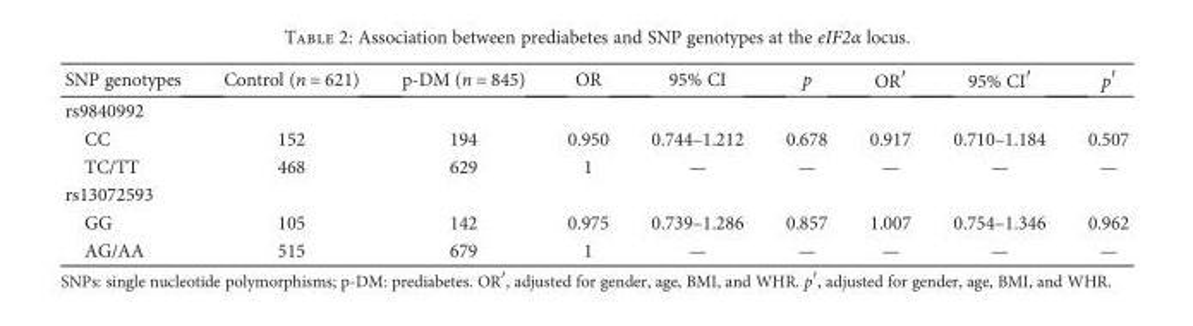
<table><thead><tr><td>SNP genotypes</td><td>Control (n = 621)</td><td>p-DM (n = 845)</td><td>OR</td><td>95% CI</td><td>p</td><td>OR′</td><td>95% CI′</td><td>p′</td></tr></thead><tbody><tr><td colspan="9">rs9840992</td></tr><tr><td>CC</td><td>152</td><td>194</td><td>0.950</td><td>0.744–1.212</td><td>0.678</td><td>0.917</td><td>0.710–1.184</td><td>0.507</td></tr><tr><td>TC/TT</td><td>468</td><td>629</td><td>1</td><td>—</td><td>—</td><td>—</td><td>—</td><td>—</td></tr><tr><td colspan="9">rs13072593</td></tr><tr><td>GG</td><td>105</td><td>142</td><td>0.975</td><td>0.739–1.286</td><td>0.857</td><td>1.007</td><td>0.754–1.346</td><td>0.962</td></tr><tr><td>AG/AA</td><td>515</td><td>679</td><td>1</td><td>—</td><td>—</td><td>—</td><td>—</td><td>—</td></tr></tbody></table>